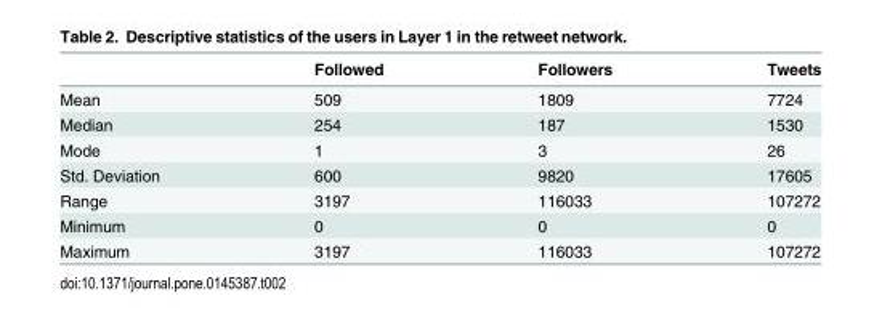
<table><thead><tr><td></td><td>Followed</td><td>Followers</td><td>Tweets</td></tr></thead><tbody><tr><td>Mean</td><td>509</td><td>1809</td><td>7724</td></tr><tr><td>Median</td><td>254</td><td>187</td><td>1530</td></tr><tr><td>Mode</td><td>1</td><td>3</td><td>26</td></tr><tr><td>Std. Deviation</td><td>600</td><td>9820</td><td>17605</td></tr><tr><td>Range</td><td>3197</td><td>116033</td><td>107272</td></tr><tr><td>Minimum</td><td>0</td><td>0</td><td>0</td></tr><tr><td>Maximum</td><td>3197</td><td>116033</td><td>107272</td></tr></tbody></table>